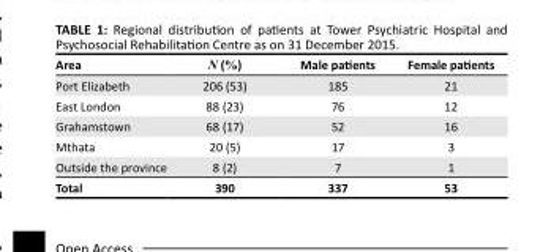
<table><thead><tr><td>Area</td><td>N (%)</td><td>Male patients</td><td>Female patients</td></tr></thead><tbody><tr><td>Port Elizabeth</td><td>206 (53)</td><td>185</td><td>21</td></tr><tr><td>East London</td><td>88 (23)</td><td>76</td><td>12</td></tr><tr><td>Grahamstown</td><td>68 (17)</td><td>52</td><td>16</td></tr><tr><td>Mthata</td><td>20 (5)</td><td>17</td><td>3</td></tr><tr><td>Outside the province</td><td>8 (2)</td><td>7</td><td>1</td></tr><tr><td>Total</td><td>390</td><td>337</td><td>53</td></tr></tbody></table>